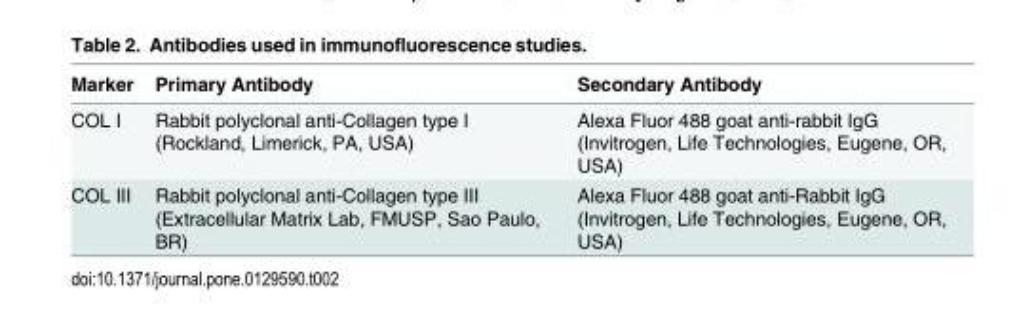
<table><thead><tr><td>Marker</td><td>Primary Antibody</td><td>Secondary Antibody</td></tr></thead><tbody><tr><td>COL I</td><td>Rabbit polyclonal anti-Collagen type I (Rockland, Limerick, PA, USA)</td><td>Alexa Fluor 488 goat anti-rabbit IgG (Invitrogen, Life Technologies, Eugene, OR, USA)</td></tr><tr><td>COL III</td><td>Rabbit polyclonal anti-Collagen type III (Extracellular Matrix Lab, FMUSP, Sao Paulo, BR)</td><td>Alexa Fluor 488 goat anti-Rabbit IgG (Invitrogen, Life Technologies, Eugene, OR, USA)</td></tr></tbody></table>